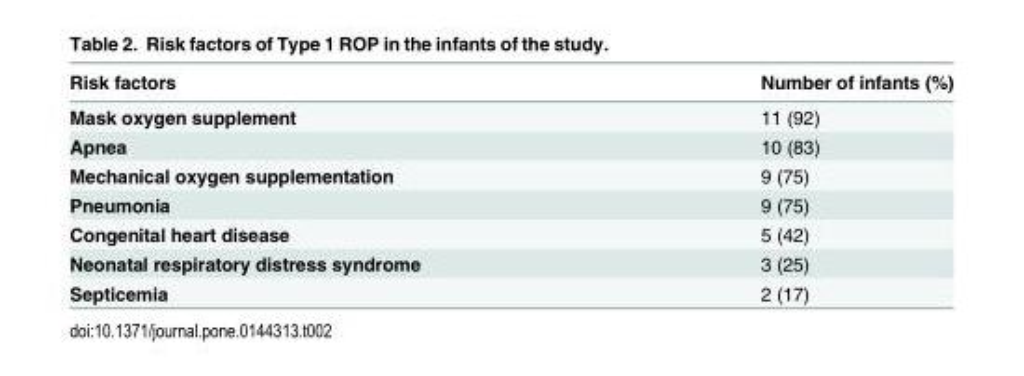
<table><thead><tr><td>Risk factors</td><td>Number of infants (%)</td></tr></thead><tbody><tr><td>Mask oxygen supplement</td><td>11 (92)</td></tr><tr><td>Apnea</td><td>10 (83)</td></tr><tr><td>Mechanical oxygen supplementation</td><td>9 (75)</td></tr><tr><td>Pneumonia</td><td>9 (75)</td></tr><tr><td>Congenital heart disease</td><td>5 (42)</td></tr><tr><td>Neonatal respiratory distress syndrome</td><td>3 (25)</td></tr><tr><td>Septicemia</td><td>2 (17)</td></tr></tbody></table>